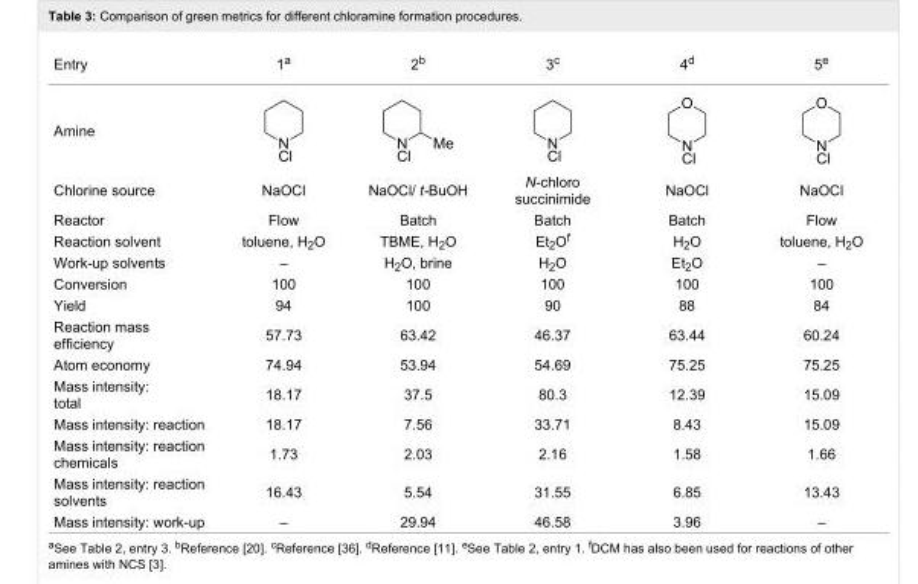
<table><tbody><tr><td>Entry</td><td>1<sup>a</sup></td><td>2<sup>b</sup></td><td>3<sup>c</sup></td><td>4<sup>d</sup></td><td>5<sup>e</sup></td></tr><tr><td colspan="6">Amine</td></tr><tr><td>Chlorine source</td><td>NaOCl</td><td>NaOCl/ t-BuOH</td><td>N-chloro succinimide</td><td>NaOCl</td><td>NaOCl</td></tr><tr><td>Reactor</td><td>Flow</td><td>Batch</td><td>Batch</td><td>Batch</td><td>Flow</td></tr><tr><td>Reaction solvent</td><td>toluene, H<sub>2</sub>O</td><td>TBME, H<sub>2</sub>O</td><td>Et<sub>2</sub>O<sup>f</sup></td><td>H<sub>2</sub>O</td><td>toluene, H<sub>2</sub>O</td></tr><tr><td>Work-up solvents</td><td>–</td><td>H<sub>2</sub>O, brine</td><td>H<sub>2</sub>O</td><td>Et<sub>2</sub>O</td><td>–</td></tr><tr><td>Conversion</td><td>100</td><td>100</td><td>100</td><td>100</td><td>100</td></tr><tr><td>Yield</td><td>94</td><td>100</td><td>90</td><td>88</td><td>84</td></tr><tr><td>Reaction mass efficiency</td><td>57.73</td><td>63.42</td><td>46.37</td><td>63.44</td><td>60.24</td></tr><tr><td>Atom economy</td><td>74.94</td><td>53.94</td><td>54.69</td><td>75.25</td><td>75.25</td></tr><tr><td>Mass intensity: total</td><td>18.17</td><td>37.5</td><td>80.3</td><td>12.39</td><td>15.09</td></tr><tr><td>Mass intensity: reaction</td><td>18.17</td><td>7.56</td><td>33.71</td><td>8.43</td><td>15.09</td></tr><tr><td>Mass intensity: reaction chemicals</td><td>1.73</td><td>2.03</td><td>2.16</td><td>1.58</td><td>1.66</td></tr><tr><td>Mass intensity: reaction solvents</td><td>16.43</td><td>5.54</td><td>31.55</td><td>6.85</td><td>13.43</td></tr><tr><td>Mass intensity: work-up</td><td>–</td><td>29.94</td><td>46.58</td><td>3.96</td><td>–</td></tr></tbody></table>